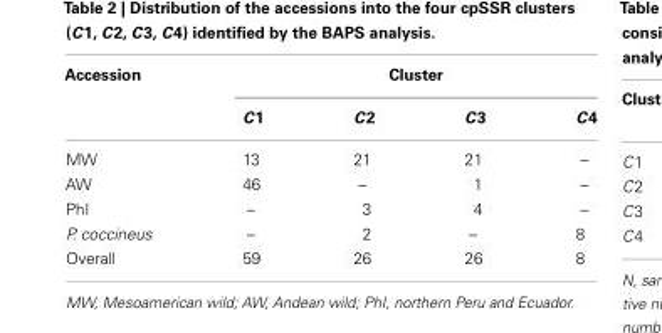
<table><thead><tr><td rowspan="2">Accession</td><td colspan="4">Cluster</td></tr><tr><td>C1</td><td>C2</td><td>C3</td><td>C4</td></tr></thead><tbody><tr><td>MW</td><td>13</td><td>21</td><td>21</td><td>–</td></tr><tr><td>AW</td><td>46</td><td>–</td><td>1</td><td>–</td></tr><tr><td>PhI</td><td>–</td><td>3</td><td>4</td><td>–</td></tr><tr><td>P. coccineus</td><td>–</td><td>2</td><td>–</td><td>8</td></tr><tr><td>Overall</td><td>59</td><td>26</td><td>26</td><td>8</td></tr></tbody></table>